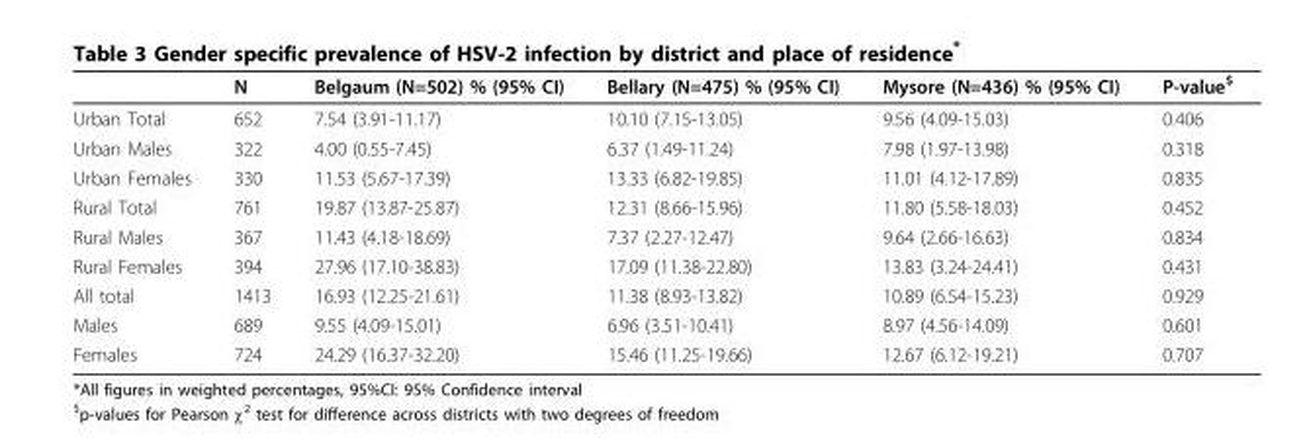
<table><thead><tr><td></td><td>N</td><td>Belgaum (N=502) % (95% CI)</td><td>Bellary (N=475) % (95% CI)</td><td>Mysore (N=436) % (95% CI)</td><td>P-value<sup>$</sup></td></tr></thead><tbody><tr><td>Urban Total</td><td>652</td><td>7.54 (3.91-11.17)</td><td>10.10 (7.15-13.05)</td><td>9.56 (4.09-15.03)</td><td>0.406</td></tr><tr><td>Urban Males</td><td>322</td><td>4.00 (0.55-7.45)</td><td>6.37 (1.49-11.24)</td><td>7.98 (1.97-13.98)</td><td>0.318</td></tr><tr><td>Urban Females</td><td>330</td><td>11.53 (5.67-17.39)</td><td>13.33 (6.82-19.85)</td><td>11.01 (4.12-17.89)</td><td>0.835</td></tr><tr><td>Rural Total</td><td>761</td><td>19.87 (13.87-25.87)</td><td>12.31 (8.66-15.96)</td><td>11.80 (5.58-18.03)</td><td>0.452</td></tr><tr><td>Rural Males</td><td>367</td><td>11.43 (4.18-18.69)</td><td>7.37 (2.27-12.47)</td><td>9.64 (2.66-16.63)</td><td>0.834</td></tr><tr><td>Rural Females</td><td>394</td><td>27.96 (17.10-38.83)</td><td>17.09 (11.38-22.80)</td><td>13.83 (3.24-24.41)</td><td>0.431</td></tr><tr><td>All total</td><td>1413</td><td>16.93 (12.25-21.61)</td><td>11.38 (8.93-13.82)</td><td>10.89 (6.54-15.23)</td><td>0.929</td></tr><tr><td>Males</td><td>689</td><td>9.55 (4.09-15.01)</td><td>6.96 (3.51-10.41)</td><td>8.97 (4.56-14.09)</td><td>0.601</td></tr><tr><td>Females</td><td>724</td><td>24.29 (16.37-32.20)</td><td>15.46 (11.25-19.66)</td><td>12.67 (6.12-19.21)</td><td>0.707</td></tr></tbody></table>